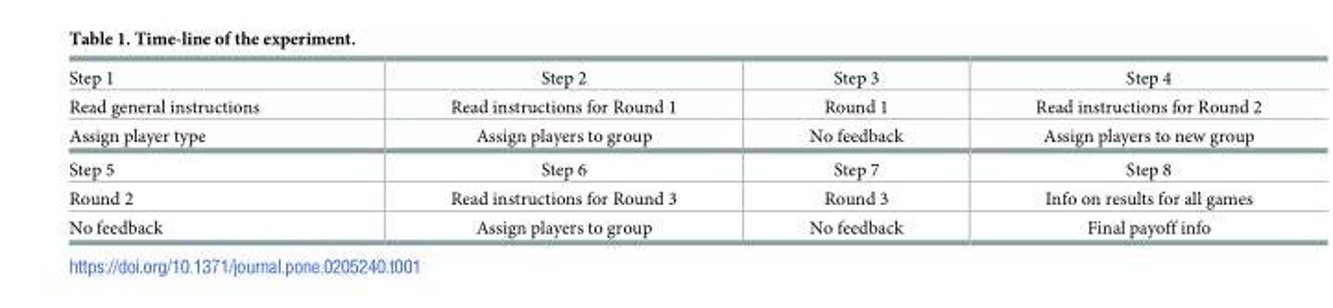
<table><tbody><tr><td>Step 1</td><td>Step 2</td><td>Step 3</td><td>Step 4</td></tr><tr><td>Read general instructions</td><td>Read instructions for Round 1</td><td>Round 1</td><td>Read instructions for Round 2</td></tr><tr><td>Assign player type</td><td>Assign players to group</td><td>No feedback</td><td>Assign players to new group</td></tr><tr><td>Step 5</td><td>Step 6</td><td>Step 7</td><td>Step 8</td></tr><tr><td>Round 2</td><td>Read instructions for Round 3</td><td>Round 3</td><td>Info on results for all games</td></tr><tr><td>No feedback</td><td>Assign players to group</td><td>No feedback</td><td>Final payoff info</td></tr></tbody></table>